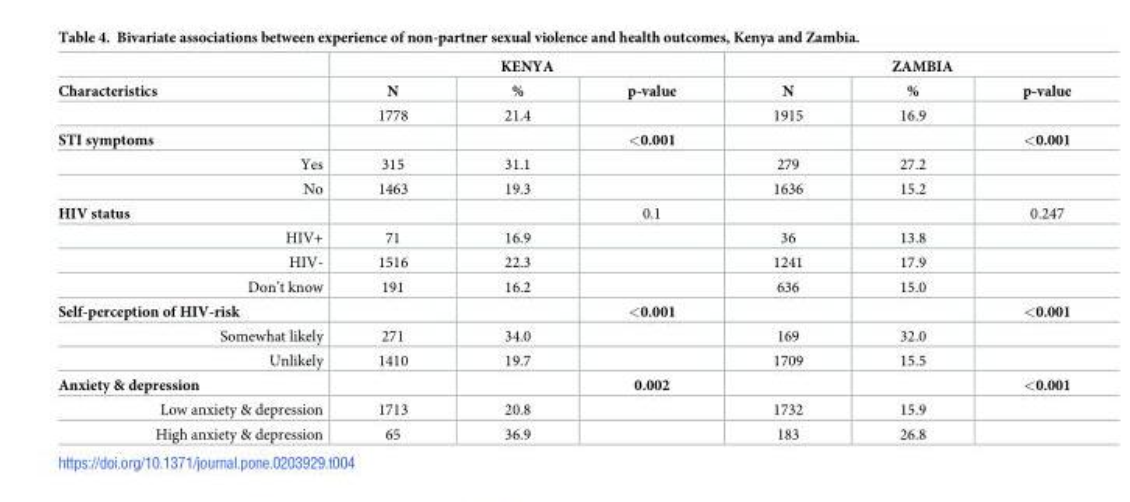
<table><thead><tr><td rowspan="2">Characteristics</td><td colspan="3">KENYA</td><td colspan="3">ZAMBIA</td></tr><tr><td>N</td><td>%</td><td>p-value</td><td>N</td><td>%</td><td>p-value</td></tr></thead><tbody><tr><td></td><td>1778</td><td>21.4</td><td></td><td>1915</td><td>16.9</td><td></td></tr><tr><td>STI symptoms</td><td></td><td></td><td>&lt;0.001</td><td></td><td></td><td>&lt;0.001</td></tr><tr><td>Yes</td><td>315</td><td>31.1</td><td></td><td>279</td><td>27.2</td><td></td></tr><tr><td>No</td><td>1463</td><td>19.3</td><td></td><td>1636</td><td>15.2</td><td></td></tr><tr><td>HIV status</td><td></td><td></td><td>0.1</td><td></td><td></td><td>0.247</td></tr><tr><td>HIV+</td><td>71</td><td>16.9</td><td></td><td>36</td><td>13.8</td><td></td></tr><tr><td>HIV-</td><td>1516</td><td>22.3</td><td></td><td>1241</td><td>17.9</td><td></td></tr><tr><td>Don’t know</td><td>191</td><td>16.2</td><td></td><td>636</td><td>15.0</td><td></td></tr><tr><td>Self-perception of HIV-risk</td><td></td><td></td><td>&lt;0.001</td><td></td><td></td><td>&lt;0.001</td></tr><tr><td>Somewhat likely</td><td>271</td><td>34.0</td><td></td><td>169</td><td>32.0</td><td></td></tr><tr><td>Unlikely</td><td>1410</td><td>19.7</td><td></td><td>1709</td><td>15.5</td><td></td></tr><tr><td>Anxiety &amp; depression</td><td></td><td></td><td>0.002</td><td></td><td></td><td>&lt;0.001</td></tr><tr><td>Low anxiety &amp; depression</td><td>1713</td><td>20.8</td><td></td><td>1732</td><td>15.9</td><td></td></tr><tr><td>High anxiety &amp; depression</td><td>65</td><td>36.9</td><td></td><td>183</td><td>26.8</td><td></td></tr></tbody></table>